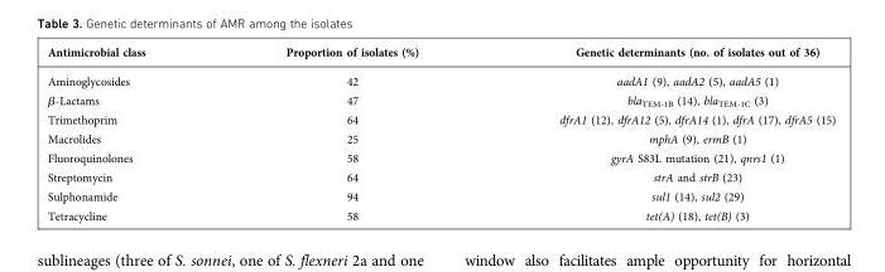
<table><thead><tr><td>Antimicrobial class</td><td>Proportion of isolates (%)</td><td>Genetic determinants (no. of isolates out of 36)</td></tr></thead><tbody><tr><td>Aminoglycosides</td><td>42</td><td>aadA1 (9), aadA2 (5), aadA5 (1)</td></tr><tr><td>β-Lactams</td><td>47</td><td>bla<sub>TEM-1B</sub> (14), bla<sub>TEM-1C</sub> (3)</td></tr><tr><td>Trimethoprim</td><td>64</td><td>dfrA1 (12), dfrA12 (5), dfrA14 (1), dfrA (17), dfrA5 (15)</td></tr><tr><td>Macrolides</td><td>25</td><td>mphA (9), ermB (1)</td></tr><tr><td>Fluoroquinolones</td><td>58</td><td>gyrA S83L mutation (21), qnrs1 (1)</td></tr><tr><td>Streptomycin</td><td>64</td><td>strA and strB (23)</td></tr><tr><td>Sulphonamide</td><td>94</td><td>sul1 (14), sul2 (29)</td></tr><tr><td>Tetracycline</td><td>58</td><td>tet(A) (18), tet(B) (3)</td></tr></tbody></table>